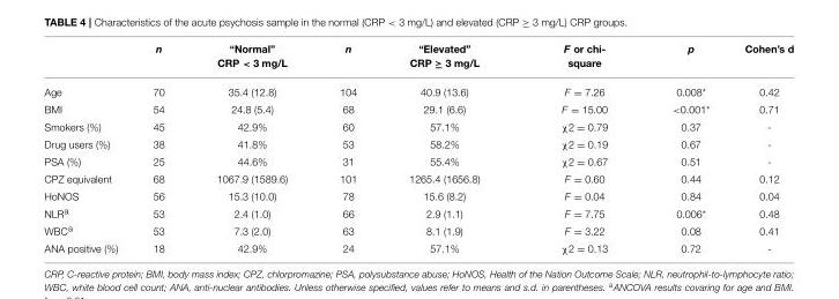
<table><thead><tr><td></td><td>n</td><td>“Normal” CRP &lt; 3 mg/L</td><td>n</td><td>“Elevated” CRP ≥ 3 mg/L</td><td>F or chi- square</td><td>p</td><td>Cohen’s d</td></tr></thead><tbody><tr><td>Age</td><td>70</td><td>35.4 (12.8)</td><td>104</td><td>40.9 (13.6)</td><td>F = 7.26</td><td>0.008*</td><td>0.42</td></tr><tr><td>BMI</td><td>54</td><td>24.8 (5.4)</td><td>68</td><td>29.1 (6.6)</td><td>F = 15.00</td><td>&lt;0.001*</td><td>0.71</td></tr><tr><td>Smokers (%)</td><td>45</td><td>42.9%</td><td>60</td><td>57.1%</td><td>χ<sup>2</sup> = 0.79</td><td>0.37</td><td>-</td></tr><tr><td>Drug users (%)</td><td>38</td><td>41.8%</td><td>53</td><td>58.2%</td><td>χ<sup>2</sup> = 0.19</td><td>0.67</td><td>-</td></tr><tr><td>PSA (%)</td><td>25</td><td>44.6%</td><td>31</td><td>55.4%</td><td>χ<sup>2</sup> = 0.67</td><td>0.51</td><td>-</td></tr><tr><td>CPZ equivalent</td><td>68</td><td>1067.9 (1589.6)</td><td>101</td><td>1265.4 (1656.8)</td><td>F = 0.60</td><td>0.44</td><td>0.12</td></tr><tr><td>HoNOS</td><td>56</td><td>15.3 (10.0)</td><td>78</td><td>15.6 (8.2)</td><td>F = 0.04</td><td>0.84</td><td>0.04</td></tr><tr><td>NLR<sup>a</sup></td><td>53</td><td>2.4 (1.0)</td><td>66</td><td>2.9 (1.1)</td><td>F = 7.75</td><td>0.006*</td><td>0.48</td></tr><tr><td>WBC<sup>a</sup></td><td>53</td><td>7.3 (2.0)</td><td>63</td><td>8.1 (1.9)</td><td>F = 3.22</td><td>0.08</td><td>0.41</td></tr><tr><td>ANA positive (%)</td><td>18</td><td>42.9%</td><td>24</td><td>57.1%</td><td>χ<sup>2</sup> = 0.13</td><td>0.72</td><td>-</td></tr></tbody></table>